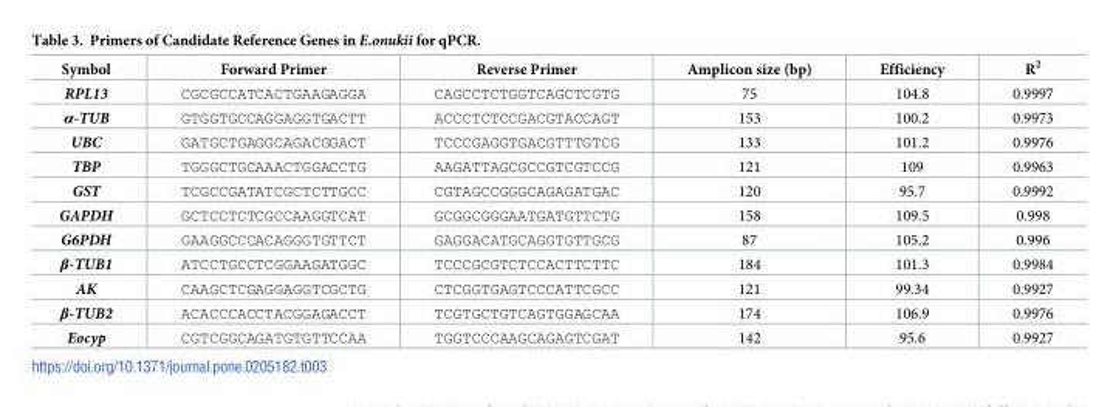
<table><thead><tr><td>Symbol</td><td>Forward Primer</td><td>Reverse Primer</td><td>Amplicon size (bp)</td><td>Efficiency</td><td>R<sup>2</sup></td></tr></thead><tbody><tr><td>RPL13</td><td>CGCGCCATCACTGAAGAGGA</td><td>CAGCCTCTGGTCAGCTCGTG</td><td>75</td><td>104.8</td><td>0.9997</td></tr><tr><td>α-TUB</td><td>GTGGTGCCAGGAGGTGACTT</td><td>ACCCTCTCCGACGTACCAGT</td><td>153</td><td>100.2</td><td>0.9973</td></tr><tr><td>UBC</td><td>GATGCTGAGGCAGACGGACT</td><td>TCCCGAGGTGACGTTTGTCG</td><td>133</td><td>101.2</td><td>0.9976</td></tr><tr><td>TBP</td><td>TGGGCTGCAAACTGGACCTG</td><td>AAGATTAGCGCCGTCGTCCG</td><td>121</td><td>109</td><td>0.9963</td></tr><tr><td>GST</td><td>TCGCCGATATCGCTCTTGCC</td><td>CGTAGCCGGGCAGAGATGAC</td><td>120</td><td>95.7</td><td>0.9992</td></tr><tr><td>GAPDH</td><td>GCTCCTCTCGCCAAGGTCAT</td><td>GCGGCGGGAATGATGTTCTG</td><td>158</td><td>109.5</td><td>0.998</td></tr><tr><td>G6PDH</td><td>GAAGGCCCACAGGGTGTTCT</td><td>GAGGACATGCAGGTGTTGCG</td><td>87</td><td>105.2</td><td>0.996</td></tr><tr><td>β-TUB1</td><td>ATCCTGCCTCGGAAGATGGC</td><td>TCCCGCGTCTCCACTTCTTC</td><td>184</td><td>101.3</td><td>0.9984</td></tr><tr><td>AK</td><td>CAAGCTCGAGGAGGTCGCTG</td><td>CTCGGTGAGTCCCATTCGCC</td><td>121</td><td>99.34</td><td>0.9927</td></tr><tr><td>β-TUB2</td><td>ACACCCACCTACGGAGACCT</td><td>TCGTGCTGTCAGTGGAGCAA</td><td>174</td><td>106.9</td><td>0.9976</td></tr><tr><td>Eocyp</td><td>CGTCGGCAGATGTGTTCCAA</td><td>TGGTCCCAAGCAGAGTCGAT</td><td>142</td><td>95.6</td><td>0.9927</td></tr></tbody></table>